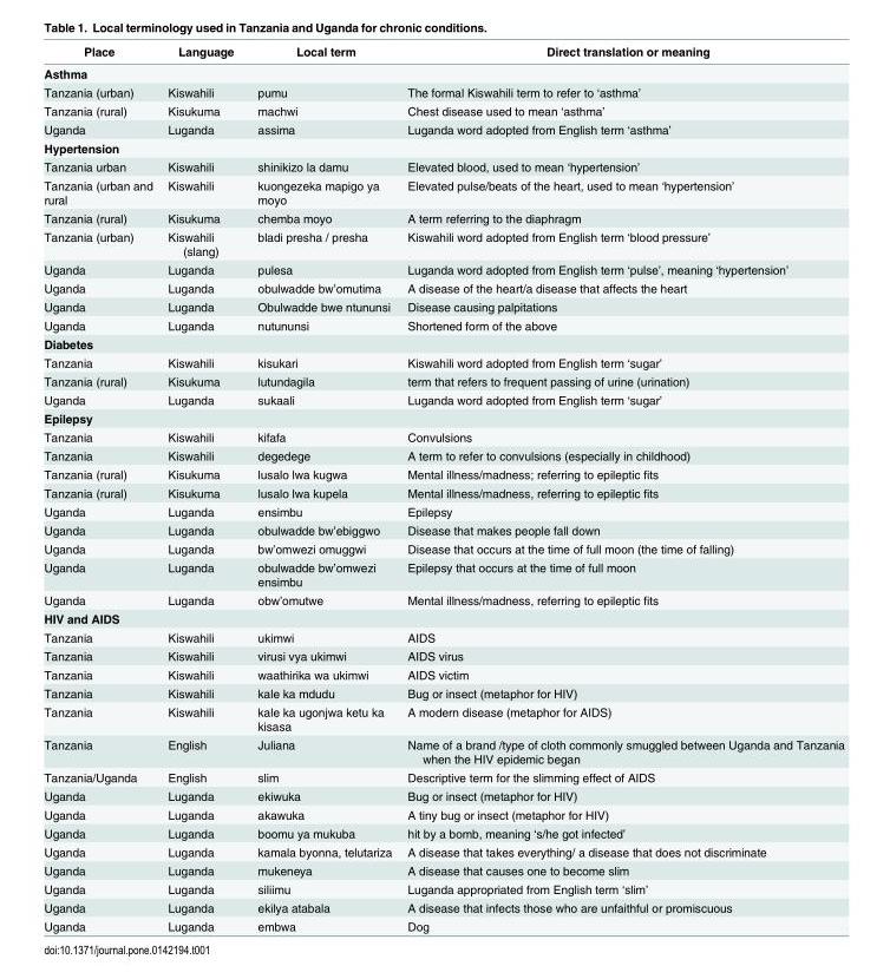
<table><thead><tr><td>Place</td><td>Language</td><td>Local term</td><td>Direct translation or meaning</td></tr></thead><tbody><tr><td colspan="4">Asthma</td></tr><tr><td>Tanzania (urban)</td><td>Kiswahili</td><td>pumu</td><td>The formal Kiswahili term to refer to ‘asthma’</td></tr><tr><td>Tanzania (rural)</td><td>Kisukuma</td><td>machwi</td><td>Chest disease used to mean ‘asthma’</td></tr><tr><td>Uganda</td><td>Luganda</td><td>assima</td><td>Luganda word adopted from English term ‘asthma’</td></tr><tr><td colspan="4">Hypertension</td></tr><tr><td>Tanzania urban</td><td>Kiswahili</td><td>shinikizo la damu</td><td>Elevated blood, used to mean ‘hypertension’</td></tr><tr><td>Tanzania (urban and rural</td><td>Kiswahili</td><td>kuongezeka mapigo ya moyo</td><td>Elevated pulse/beats of the heart, used to mean ‘hypertension’</td></tr><tr><td>Tanzania (rural)</td><td>Kisukuma</td><td>chemba moyo</td><td>A term referring to the diaphragm</td></tr><tr><td>Tanzania (urban)</td><td>Kiswahili (slang)</td><td>bladi presha / presha</td><td>Kiswahili word adopted from English term ‘blood pressure’</td></tr><tr><td>Uganda</td><td>Luganda</td><td>pulesa</td><td>Luganda word adopted from English term ‘pulse’, meaning ‘hypertension’</td></tr><tr><td>Uganda</td><td>Luganda</td><td>obulwadde bw’omutima</td><td>A disease of the heart/a disease that affects the heart</td></tr><tr><td>Uganda</td><td>Luganda</td><td>Obulwadde bwe ntununsi</td><td>Disease causing palpitations</td></tr><tr><td>Uganda</td><td>Luganda</td><td>nutununsi</td><td>Shortened form of the above</td></tr><tr><td colspan="4">Diabetes</td></tr><tr><td>Tanzania</td><td>Kiswahili</td><td>kisukari</td><td>Kiswahili word adopted from English term ‘sugar’</td></tr><tr><td>Tanzania (rural)</td><td>Kisukuma</td><td>lutundagila</td><td>term that refers to frequent passing of urine (urination)</td></tr><tr><td>Uganda</td><td>Luganda</td><td>sukaali</td><td>Luganda word adopted from English term ‘sugar’</td></tr><tr><td colspan="4">Epilepsy</td></tr><tr><td>Tanzania</td><td>Kiswahili</td><td>kifafa</td><td>Convulsions</td></tr><tr><td>Tanzania</td><td>Kiswahili</td><td>degedege</td><td>A term to refer to convulsions (especially in childhood)</td></tr><tr><td>Tanzania (rural)</td><td>Kisukuma</td><td>lusalo lwa kugwa</td><td>Mental illness/madness; referring to epileptic fits</td></tr><tr><td>Tanzania (rural)</td><td>Kisukuma</td><td>lusalo lwa kupela</td><td>Mental illness/madness, referring to epileptic fits</td></tr><tr><td>Uganda</td><td>Luganda</td><td>ensimbu</td><td>Epilepsy</td></tr><tr><td>Uganda</td><td>Luganda</td><td>obulwadde bw’ebiggwo</td><td>Disease that makes people fall down</td></tr><tr><td>Uganda</td><td>Luganda</td><td>bw’omwezi omuggwi</td><td>Disease that occurs at the time of full moon (the time of falling)</td></tr><tr><td>Uganda</td><td>Luganda</td><td>obulwadde bw’omwezi ensimbu</td><td>Epilepsy that occurs at the time of full moon</td></tr><tr><td>Uganda</td><td>Luganda</td><td>obw’omutwe</td><td>Mental illness/madness, referring to epileptic fits</td></tr><tr><td colspan="4">HIV and AIDS</td></tr><tr><td>Tanzania</td><td>Kiswahili</td><td>ukimwi</td><td>AIDS</td></tr><tr><td>Tanzania</td><td>Kiswahili</td><td>virusi vya ukimwi</td><td>AIDS virus</td></tr><tr><td>Tanzania</td><td>Kiswahili</td><td>waathirika wa ukimwi</td><td>AIDS victim</td></tr><tr><td>Tanzania</td><td>Kiswahili</td><td>kale ka mdudu</td><td>Bug or insect (metaphor for HIV)</td></tr><tr><td>Tanzania</td><td>Kiswahili</td><td>kale ka ugonjwa ketu ka kisasa</td><td>A modern disease (metaphor for AIDS)</td></tr><tr><td>Tanzania</td><td>English</td><td>Juliana</td><td>Name of a brand /type of cloth commonly smuggled between Uganda and Tanzania when the HIV epidemic began</td></tr><tr><td>Tanzania/Uganda</td><td>English</td><td>slim</td><td>Descriptive term for the slimming effect of AIDS</td></tr><tr><td>Uganda</td><td>Luganda</td><td>ekiwuka</td><td>Bug or insect (metaphor for HIV)</td></tr><tr><td>Uganda</td><td>Luganda</td><td>akawuka</td><td>A tiny bug or insect (metaphor for HIV)</td></tr><tr><td>Uganda</td><td>Luganda</td><td>boomu ya mukuba</td><td>hit by a bomb, meaning ‘s/he got infected’</td></tr><tr><td>Uganda</td><td>Luganda</td><td>kamala byonna, telutariza</td><td>A disease that takes everything/ a disease that does not discriminate</td></tr><tr><td>Uganda</td><td>Luganda</td><td>mukeneya</td><td>A disease that causes one to become slim</td></tr><tr><td>Uganda</td><td>Luganda</td><td>siliimu</td><td>Luganda appropriated from English term ‘slim’</td></tr><tr><td>Uganda</td><td>Luganda</td><td>ekilya atabala</td><td>A disease that infects those who are unfaithful or promiscuous</td></tr><tr><td>Uganda</td><td>Luganda</td><td>embwa</td><td>Dog</td></tr></tbody></table>